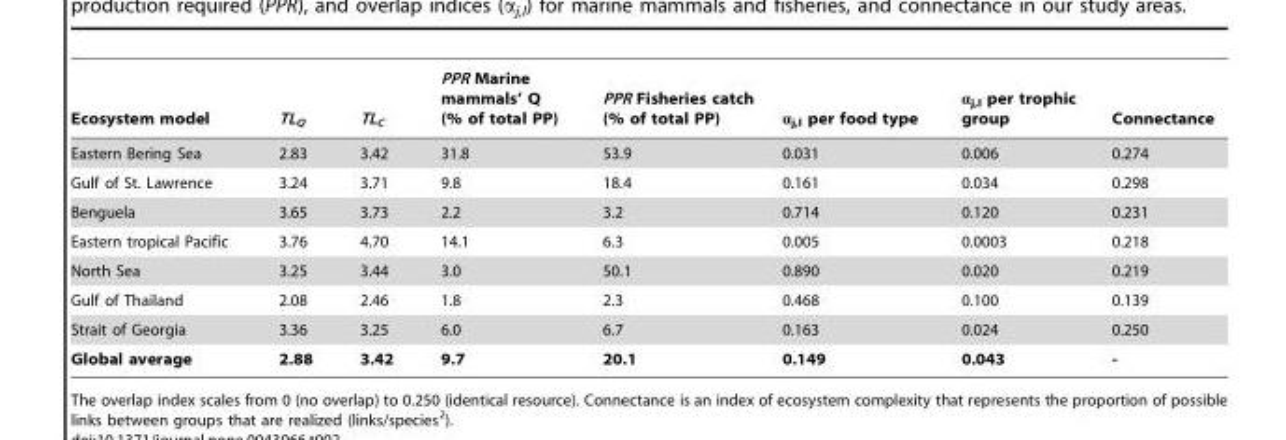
<table><thead><tr><td>Ecosystem model</td><td>TL<sub>Q</sub></td><td>TL<sub>C</sub></td><td>PPR Marine mammals’ Q (% of total PP)</td><td>PPR Fisheries catch (% of total PP)</td><td>α<sub>j,l</sub> per food type</td><td>α<sub>j,l</sub> per trophic group</td><td>Connectance</td></tr></thead><tbody><tr><td>Eastern Bering Sea</td><td>2.83</td><td>3.42</td><td>31.8</td><td>53.9</td><td>0.031</td><td>0.006</td><td>0.274</td></tr><tr><td>Gulf of St. Lawrence</td><td>3.24</td><td>3.71</td><td>9.8</td><td>18.4</td><td>0.161</td><td>0.034</td><td>0.298</td></tr><tr><td>Benguela</td><td>3.65</td><td>3.73</td><td>2.2</td><td>3.2</td><td>0.714</td><td>0.120</td><td>0.231</td></tr><tr><td>Eastern tropical Pacific</td><td>3.76</td><td>4.70</td><td>14.1</td><td>6.3</td><td>0.005</td><td>0.0003</td><td>0.218</td></tr><tr><td>North Sea</td><td>3.25</td><td>3.44</td><td>3.0</td><td>50.1</td><td>0.890</td><td>0.020</td><td>0.219</td></tr><tr><td>Gulf of Thailand</td><td>2.08</td><td>2.46</td><td>1.8</td><td>2.3</td><td>0.468</td><td>0.100</td><td>0.139</td></tr><tr><td>Strait of Georgia</td><td>3.36</td><td>3.25</td><td>6.0</td><td>6.7</td><td>0.163</td><td>0.024</td><td>0.250</td></tr><tr><td>Global average</td><td>2.88</td><td>3.42</td><td>9.7</td><td>20.1</td><td>0.149</td><td>0.043</td><td>-</td></tr></tbody></table>